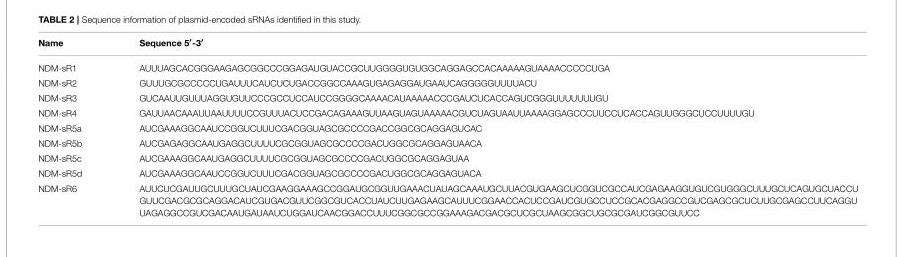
<table><thead><tr><td>Name</td><td>Sequence 5′-3′</td></tr></thead><tbody><tr><td>NDM-sR1</td><td>AUUUAGCACGGGAAGAGCGGCCCGGAGAUGUACCGCUUGGGGUGUGGCAGGAGCCACAAAAAGUAAAACCCCCUGA</td></tr><tr><td>NDM-sR2</td><td>GUUUGCGCCCCCUGAUUUCAUCUCUGACCGGCCAAAGUGAGAGGAUGAAUCAGGGGGUUUUACU</td></tr><tr><td>NDM-sR3</td><td>GUCAAUUGUUUAGGUGUUCCCGCCUCCAUCCGGGGCAAAACAUAAAAACCCGAUCUCACCAGUCGGGUUUUUUUGU</td></tr><tr><td>NDM-sR4</td><td>GAUUAACAAAUUAAUUUUCCGUUUACUCCGACAGAAAGUUAAGUAGUAAAAACGUCUAGUAAUUAAAAGGAGCCCUUCCUCACCAGUUGGGCUCCUUUUGU</td></tr><tr><td>NDM-sR5a</td><td>AUCGAAAGGCAAUCCGGUCUUUCGACGGUAGCGCCCCGACCGGCGCAGGAGUCAC</td></tr><tr><td>NDM-sR5b</td><td>AUCGAGAGGCAAUGAGGCUUUUCGCGGUAGCGCCCCGACUGGCGCAGGAGUAACA</td></tr><tr><td>NDM-sR5c</td><td>AUCGAAAGGCAAUGAGGCUUUUCGCGGUAGCGCCCCGACUGGCGCAGGAGUAA</td></tr><tr><td>NDM-sR5d</td><td>AUCGAAAGGCAAUCCGGUCUUUCGACGGUAGCGCCCCGACUGGCGCAGGAGUACA</td></tr><tr><td>NDM-sR6</td><td>AUUCUCGAUUGCUUUGCUAUCGAAGGAAAGCCGGAUGCGGUUGAAACUAUAGCAAAUGCUUACGUGAAGCUCGGUCGCCAUCGAGAAGGUGUCGUGGGCUUUGCUCAGUGCUACCU GUUCGACGCGCAGGACAUCGUGACGUUCGGCGUCACCUAUCUUGAGAAGCAUUUCGGAACCACUCCGAUCGUGCCUCCGCACGAGGCCGUCGAGCGCUCUUGCGAGCCUUCAGGU UAGAGGCCGUCGACAAUGAUAAUCUGGAUCAACGGACCUUUCGGCGCCGGAAAGACGACGCUCGCUAAGCGGCUGCGCGAUCGGCGUUCC</td></tr></tbody></table>